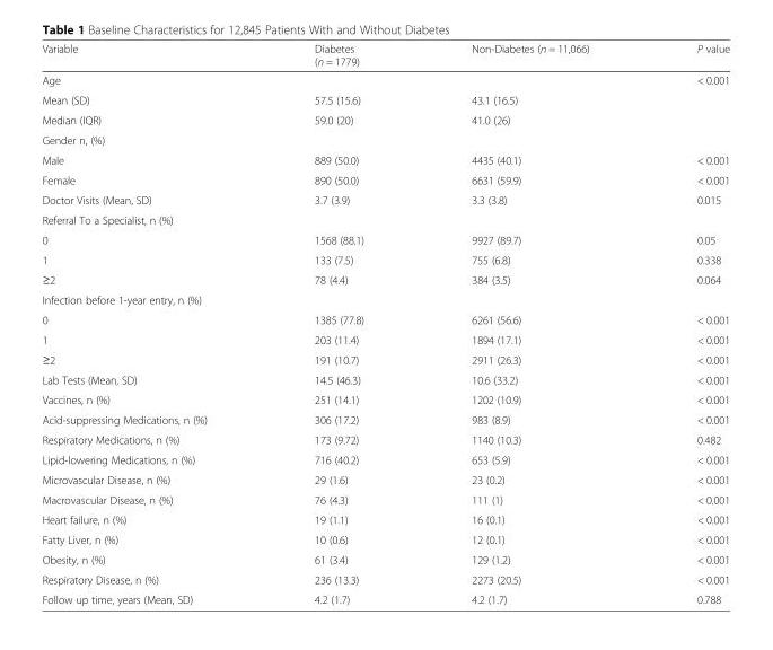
<table><thead><tr><td>Variable</td><td>Diabetes (n = 1779)</td><td>Non-Diabetes (n = 11,066)</td><td>P value</td></tr></thead><tbody><tr><td>Age</td><td></td><td></td><td>&lt; 0.001</td></tr><tr><td>Mean (SD)</td><td>57.5 (15.6)</td><td>43.1 (16.5)</td><td></td></tr><tr><td>Median (IQR)</td><td>59.0 (20)</td><td>41.0 (26)</td><td></td></tr><tr><td colspan="4">Gender n, (%)</td></tr><tr><td>Male</td><td>889 (50.0)</td><td>4435 (40.1)</td><td>&lt; 0.001</td></tr><tr><td>Female</td><td>890 (50.0)</td><td>6631 (59.9)</td><td>&lt; 0.001</td></tr><tr><td>Doctor Visits (Mean, SD)</td><td>3.7 (3.9)</td><td>3.3 (3.8)</td><td>0.015</td></tr><tr><td colspan="4">Referral To a Specialist, n (%)</td></tr><tr><td>0</td><td>1568 (88.1)</td><td>9927 (89.7)</td><td>0.05</td></tr><tr><td>1</td><td>133 (7.5)</td><td>755 (6.8)</td><td>0.338</td></tr><tr><td>≥2</td><td>78 (4.4)</td><td>384 (3.5)</td><td>0.064</td></tr><tr><td colspan="4">Infection before 1-year entry, n (%)</td></tr><tr><td>0</td><td>1385 (77.8)</td><td>6261 (56.6)</td><td>&lt; 0.001</td></tr><tr><td>1</td><td>203 (11.4)</td><td>1894 (17.1)</td><td>&lt; 0.001</td></tr><tr><td>≥2</td><td>191 (10.7)</td><td>2911 (26.3)</td><td>&lt; 0.001</td></tr><tr><td>Lab Tests (Mean, SD)</td><td>14.5 (46.3)</td><td>10.6 (33.2)</td><td>&lt; 0.001</td></tr><tr><td>Vaccines, n (%)</td><td>251 (14.1)</td><td>1202 (10.9)</td><td>&lt; 0.001</td></tr><tr><td>Acid-suppressing Medications, n (%)</td><td>306 (17.2)</td><td>983 (8.9)</td><td>&lt; 0.001</td></tr><tr><td>Respiratory Medications, n (%)</td><td>173 (9.72)</td><td>1140 (10.3)</td><td>0.482</td></tr><tr><td>Lipid-lowering Medications, n (%)</td><td>716 (40.2)</td><td>653 (5.9)</td><td>&lt; 0.001</td></tr><tr><td>Microvascular Disease, n (%)</td><td>29 (1.6)</td><td>23 (0.2)</td><td>&lt; 0.001</td></tr><tr><td>Macrovascular Disease, n (%)</td><td>76 (4.3)</td><td>111 (1)</td><td>&lt; 0.001</td></tr><tr><td>Heart failure, n (%)</td><td>19 (1.1)</td><td>16 (0.1)</td><td>&lt; 0.001</td></tr><tr><td>Fatty Liver, n (%)</td><td>10 (0.6)</td><td>12 (0.1)</td><td>&lt; 0.001</td></tr><tr><td>Obesity, n (%)</td><td>61 (3.4)</td><td>129 (1.2)</td><td>&lt; 0.001</td></tr><tr><td>Respiratory Disease, n (%)</td><td>236 (13.3)</td><td>2273 (20.5)</td><td>&lt; 0.001</td></tr><tr><td>Follow up time, years (Mean, SD)</td><td>4.2 (1.7)</td><td>4.2 (1.7)</td><td>0.788</td></tr></tbody></table>